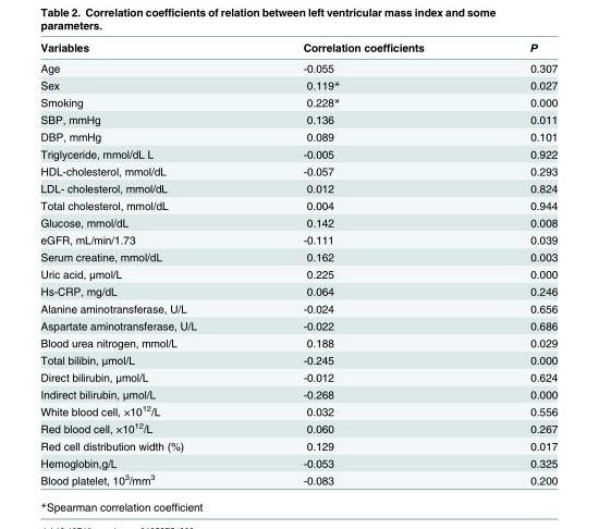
<table><thead><tr><td>Variables</td><td>Correlation coefficients</td><td>P</td></tr></thead><tbody><tr><td>Age</td><td>-0.055</td><td>0.307</td></tr><tr><td>Sex</td><td>0.119*</td><td>0.027</td></tr><tr><td>Smoking</td><td>0.228*</td><td>0.000</td></tr><tr><td>SBP, mmHg</td><td>0.136</td><td>0.011</td></tr><tr><td>DBP, mmHg</td><td>0.089</td><td>0.101</td></tr><tr><td>Triglyceride, mmol/dL L</td><td>-0.005</td><td>0.922</td></tr><tr><td>HDL-cholesterol, mmol/dL</td><td>-0.057</td><td>0.293</td></tr><tr><td>LDL- cholesterol, mmol/dL</td><td>0.012</td><td>0.824</td></tr><tr><td>Total cholesterol, mmol/dL</td><td>0.004</td><td>0.944</td></tr><tr><td>Glucose, mmol/dL</td><td>0.142</td><td>0.008</td></tr><tr><td>eGFR, mL/min/1.73</td><td>-0.111</td><td>0.039</td></tr><tr><td>Serum creatine, mmol/dL</td><td>0.162</td><td>0.003</td></tr><tr><td>Uric acid, μmol/L</td><td>0.225</td><td>0.000</td></tr><tr><td>Hs-CRP, mg/dL</td><td>0.064</td><td>0.246</td></tr><tr><td>Alanine aminotransferase, U/L</td><td>-0.024</td><td>0.656</td></tr><tr><td>Aspartate aminotransferase, U/L</td><td>-0.022</td><td>0.686</td></tr><tr><td>Blood urea nitrogen, mmol/L</td><td>0.188</td><td>0.029</td></tr><tr><td>Total bilibin, μmol/L</td><td>-0.245</td><td>0.000</td></tr><tr><td>Direct bilirubin, μmol/L</td><td>-0.012</td><td>0.624</td></tr><tr><td>Indirect bilirubin, μmol/L</td><td>-0.268</td><td>0.000</td></tr><tr><td>White blood cell, ×10<sup>12</sup>/L</td><td>0.032</td><td>0.556</td></tr><tr><td>Red blood cell, ×10<sup>12</sup>/L</td><td>0.060</td><td>0.267</td></tr><tr><td>Red cell distribution width (%)</td><td>0.129</td><td>0.017</td></tr><tr><td>Hemoglobin,g/L</td><td>-0.053</td><td>0.325</td></tr><tr><td>Blood platelet, 10<sup>3</sup>/mm<sup>3</sup></td><td>-0.083</td><td>0.200</td></tr></tbody></table>